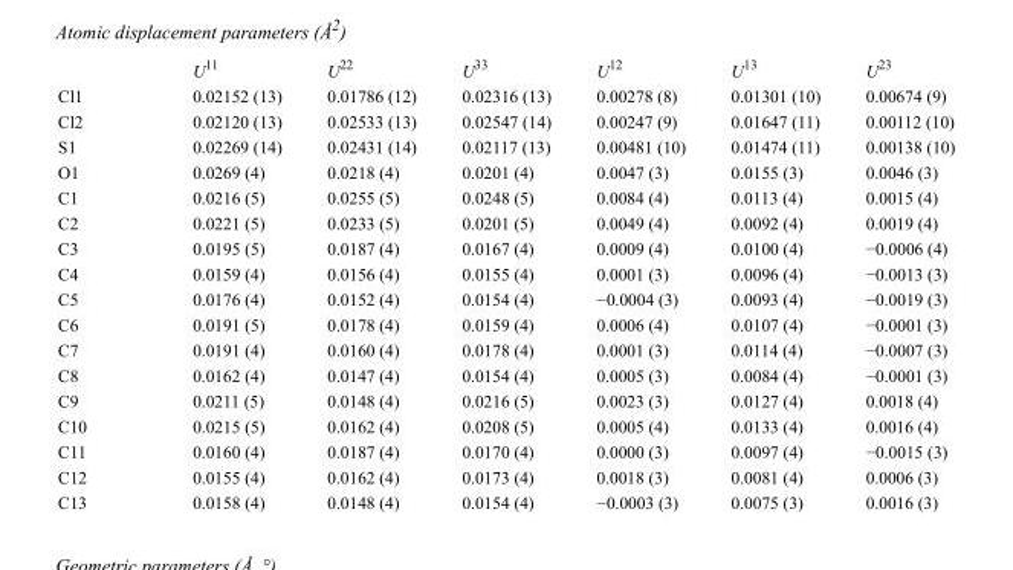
<table><thead><tr><td></td><td>U<sup>11</sup></td><td>U<sup>22</sup></td><td>U<sup>33</sup></td><td>U<sup>12</sup></td><td>U<sup>13</sup></td><td>U<sup>23</sup></td></tr></thead><tbody><tr><td>Cl1</td><td>0.02152 (13)</td><td>0.01786 (12)</td><td>0.02316 (13)</td><td>0.00278 (8)</td><td>0.01301 (10)</td><td>0.00674 (9)</td></tr><tr><td>Cl2</td><td>0.02120 (13)</td><td>0.02533 (13)</td><td>0.02547 (14)</td><td>0.00247 (9)</td><td>0.01647 (11)</td><td>0.00112 (10)</td></tr><tr><td>S1</td><td>0.02269 (14)</td><td>0.02431 (14)</td><td>0.02117 (13)</td><td>0.00481 (10)</td><td>0.01474 (11)</td><td>0.00138 (10)</td></tr><tr><td>O1</td><td>0.0269 (4)</td><td>0.0218 (4)</td><td>0.0201 (4)</td><td>0.0047 (3)</td><td>0.0155 (3)</td><td>0.0046 (3)</td></tr><tr><td>C1</td><td>0.0216 (5)</td><td>0.0255 (5)</td><td>0.0248 (5)</td><td>0.0084 (4)</td><td>0.0113 (4)</td><td>0.0015 (4)</td></tr><tr><td>C2</td><td>0.0221 (5)</td><td>0.0233 (5)</td><td>0.0201 (5)</td><td>0.0049 (4)</td><td>0.0092 (4)</td><td>0.0019 (4)</td></tr><tr><td>C3</td><td>0.0195 (5)</td><td>0.0187 (4)</td><td>0.0167 (4)</td><td>0.0009 (4)</td><td>0.0100 (4)</td><td>−0.0006 (4)</td></tr><tr><td>C4</td><td>0.0159 (4)</td><td>0.0156 (4)</td><td>0.0155 (4)</td><td>0.0001 (3)</td><td>0.0096 (4)</td><td>−0.0013 (3)</td></tr><tr><td>C5</td><td>0.0176 (4)</td><td>0.0152 (4)</td><td>0.0154 (4)</td><td>−0.0004 (3)</td><td>0.0093 (4)</td><td>−0.0019 (3)</td></tr><tr><td>C6</td><td>0.0191 (5)</td><td>0.0178 (4)</td><td>0.0159 (4)</td><td>0.0006 (4)</td><td>0.0107 (4)</td><td>−0.0001 (3)</td></tr><tr><td>C7</td><td>0.0191 (4)</td><td>0.0160 (4)</td><td>0.0178 (4)</td><td>0.0001 (3)</td><td>0.0114 (4)</td><td>−0.0007 (3)</td></tr><tr><td>C8</td><td>0.0162 (4)</td><td>0.0147 (4)</td><td>0.0154 (4)</td><td>0.0005 (3)</td><td>0.0084 (4)</td><td>−0.0001 (3)</td></tr><tr><td>C9</td><td>0.0211 (5)</td><td>0.0148 (4)</td><td>0.0216 (5)</td><td>0.0023 (3)</td><td>0.0127 (4)</td><td>0.0018 (4)</td></tr><tr><td>C10</td><td>0.0215 (5)</td><td>0.0162 (4)</td><td>0.0208 (5)</td><td>0.0005 (4)</td><td>0.0133 (4)</td><td>0.0016 (4)</td></tr><tr><td>C11</td><td>0.0160 (4)</td><td>0.0187 (4)</td><td>0.0170 (4)</td><td>0.0000 (3)</td><td>0.0097 (4)</td><td>−0.0015 (3)</td></tr><tr><td>C12</td><td>0.0155 (4)</td><td>0.0162 (4)</td><td>0.0173 (4)</td><td>0.0018 (3)</td><td>0.0081 (4)</td><td>0.0006 (3)</td></tr><tr><td>C13</td><td>0.0158 (4)</td><td>0.0148 (4)</td><td>0.0154 (4)</td><td>−0.0003 (3)</td><td>0.0075 (3)</td><td>0.0016 (3)</td></tr></tbody></table>